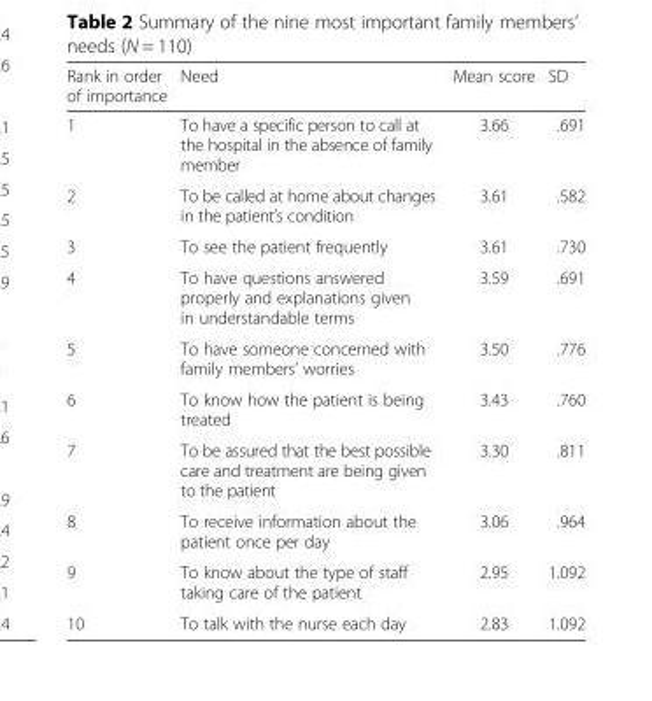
<table><thead><tr><td>Rank in order of importance</td><td>Need</td><td>Mean score</td><td>SD</td></tr></thead><tbody><tr><td>1</td><td>To have a specific person to call at the hospital in the absence of family member</td><td>3.66</td><td>.691</td></tr><tr><td>2</td><td>To be called at home about changes in the patient’s condition</td><td>3.61</td><td>.582</td></tr><tr><td>3</td><td>To see the patient frequently</td><td>3.61</td><td>.730</td></tr><tr><td>4</td><td>To have questions answered properly and explanations given in understandable terms</td><td>3.59</td><td>.691</td></tr><tr><td>5</td><td>To have someone concerned with family members’ worries</td><td>3.50</td><td>.776</td></tr><tr><td>6</td><td>To know how the patient is being treated</td><td>3.43</td><td>.760</td></tr><tr><td>7</td><td>To be assured that the best possible care and treatment are being given to the patient</td><td>3.30</td><td>.811</td></tr><tr><td>8</td><td>To receive information about the patient once per day</td><td>3.06</td><td>.964</td></tr><tr><td>9</td><td>To know about the type of staff taking care of the patient</td><td>2.95</td><td>1.092</td></tr><tr><td>10</td><td>To talk with the nurse each day</td><td>2.83</td><td>1.092</td></tr></tbody></table>